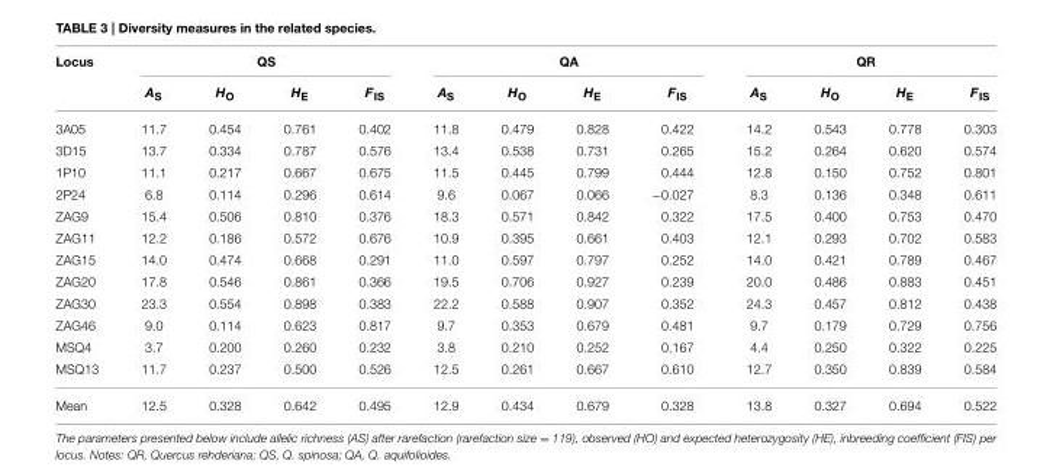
<table><thead><tr><td rowspan="2">Locus</td><td colspan="4">QS</td><td colspan="4">QA</td><td colspan="4">QR</td></tr><tr><td>A<sub>S</sub></td><td>H<sub>O</sub></td><td>H<sub>E</sub></td><td>F<sub>IS</sub></td><td>A<sub>S</sub></td><td>H<sub>O</sub></td><td>H<sub>E</sub></td><td>F<sub>IS</sub></td><td>A<sub>S</sub></td><td>H<sub>O</sub></td><td>H<sub>E</sub></td><td>F<sub>IS</sub></td></tr></thead><tbody><tr><td>3A05</td><td>11.7</td><td>0.454</td><td>0.761</td><td>0.402</td><td>11.8</td><td>0.479</td><td>0.828</td><td>0.422</td><td>14.2</td><td>0.543</td><td>0.778</td><td>0.303</td></tr><tr><td>3D15</td><td>13.7</td><td>0.334</td><td>0.787</td><td>0.576</td><td>13.4</td><td>0.538</td><td>0.731</td><td>0.265</td><td>15.2</td><td>0.264</td><td>0.620</td><td>0.574</td></tr><tr><td>1P10</td><td>11.1</td><td>0.217</td><td>0.667</td><td>0.675</td><td>11.5</td><td>0.445</td><td>0.799</td><td>0.444</td><td>12.8</td><td>0.150</td><td>0.752</td><td>0.801</td></tr><tr><td>2P24</td><td>6.8</td><td>0.114</td><td>0.296</td><td>0.614</td><td>9.6</td><td>0.067</td><td>0.066</td><td>−0.027</td><td>8.3</td><td>0.136</td><td>0.348</td><td>0.611</td></tr><tr><td>ZAG9</td><td>15.4</td><td>0.506</td><td>0.810</td><td>0.376</td><td>18.3</td><td>0.571</td><td>0.842</td><td>0.322</td><td>17.5</td><td>0.400</td><td>0.753</td><td>0.470</td></tr><tr><td>ZAG11</td><td>12.2</td><td>0.186</td><td>0.572</td><td>0.676</td><td>10.9</td><td>0.395</td><td>0.661</td><td>0.403</td><td>12.1</td><td>0.293</td><td>0.702</td><td>0.583</td></tr><tr><td>ZAG15</td><td>14.0</td><td>0.474</td><td>0.668</td><td>0.291</td><td>11.0</td><td>0.597</td><td>0.797</td><td>0.252</td><td>14.0</td><td>0.421</td><td>0.789</td><td>0.467</td></tr><tr><td>ZAG20</td><td>17.8</td><td>0.546</td><td>0.861</td><td>0.366</td><td>19.5</td><td>0.706</td><td>0.927</td><td>0.239</td><td>20.0</td><td>0.486</td><td>0.883</td><td>0.451</td></tr><tr><td>ZAG30</td><td>23.3</td><td>0.554</td><td>0.898</td><td>0.383</td><td>22.2</td><td>0.588</td><td>0.907</td><td>0.352</td><td>24.3</td><td>0.457</td><td>0.812</td><td>0.438</td></tr><tr><td>ZAG46</td><td>9.0</td><td>0.114</td><td>0.623</td><td>0.817</td><td>9.7</td><td>0.353</td><td>0.679</td><td>0.481</td><td>9.7</td><td>0.179</td><td>0.729</td><td>0.756</td></tr><tr><td>MSQ4</td><td>3.7</td><td>0.200</td><td>0.260</td><td>0.232</td><td>3.8</td><td>0.210</td><td>0.252</td><td>0.167</td><td>4.4</td><td>0.250</td><td>0.322</td><td>0.225</td></tr><tr><td>MSQ13</td><td>11.7</td><td>0.237</td><td>0.500</td><td>0.526</td><td>12.5</td><td>0.261</td><td>0.667</td><td>0.610</td><td>12.7</td><td>0.350</td><td>0.839</td><td>0.584</td></tr><tr><td>Mean</td><td>12.5</td><td>0.328</td><td>0.642</td><td>0.495</td><td>12.9</td><td>0.434</td><td>0.679</td><td>0.328</td><td>13.8</td><td>0.327</td><td>0.694</td><td>0.522</td></tr></tbody></table>